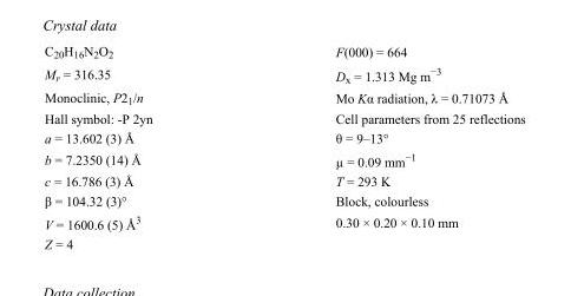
<table><tbody><tr><td>C<sub>20</sub>H<sub>16</sub>N<sub>2</sub>O<sub>2</sub></td><td>F(000) = 664</td></tr><tr><td>M<sub>r</sub> = 316.35</td><td>D<sub>x</sub> = 1.313 Mg m<sup>−3</sup></td></tr><tr><td>Monoclinic, P2<sub>1</sub>/n</td><td>Mo Kα radiation, λ = 0.71073 Å</td></tr><tr><td>Hall symbol: -P 2yn</td><td>Cell parameters from 25 reflections</td></tr><tr><td>a = 13.602 (3) Å</td><td>θ = 9–13°</td></tr><tr><td>b = 7.2350 (14) Å</td><td>µ = 0.09 mm<sup>−1</sup></td></tr><tr><td>c = 16.786 (3) Å</td><td>T = 293 K</td></tr><tr><td>β = 104.32 (3)°</td><td>Block, colourless</td></tr><tr><td>V = 1600.6 (5) Å<sup>3</sup></td><td>0.30 × 0.20 × 0.10 mm</td></tr><tr><td>Z = 4</td><td></td></tr></tbody></table>